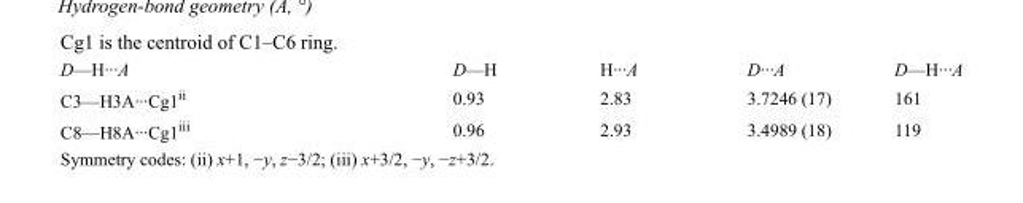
<table><tbody><tr><td>D—H···A</td><td>D—H</td><td>H···A</td><td>D···A</td><td>D—H···A</td></tr><tr><td>C3—H3A···Cg1<sup>ii</sup></td><td>0.93</td><td>2.83</td><td>3.7246 (17)</td><td>161</td></tr><tr><td>C8—H8A···Cg1<sup>iii</sup></td><td>0.96</td><td>2.93</td><td>3.4989 (18)</td><td>119</td></tr></tbody></table>